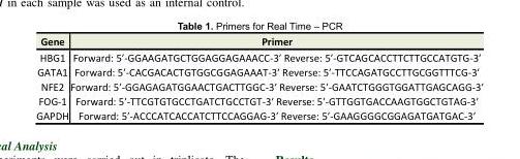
<table><tbody><tr><td>Gene</td><td>Primer</td></tr><tr><td>HBG1</td><td>Forward: 5′-GGAAGATGCTGGAGGAGAAACC-3′ Reverse: 5′-GTCAGCACCTTCTTGCCATGTG-3′</td></tr><tr><td>GATA1</td><td>Forward: 5′-CACGACACTGTGGCGGAGAAAT-3′ Reverse: 5′-TTCCAGATGCCTTGCGGTTTCG-3′</td></tr><tr><td>NFE2</td><td>Forward: 5′-GGAGAGATGGAACTGACTTGGC-3′ Reverse: 5′-GAATCTGGGTGGATTGAGCAGG-3′</td></tr><tr><td>FOG-1</td><td>Forward: 5′-TTCGTGTGCCTGATCTGCCTGT-3′ Reverse: 5′-GTTGGTGACCAAGTGGCTGTAG-3′</td></tr><tr><td>GAPDH</td><td>Forward: 5′-ACCCATCACCATCTTCCAGGAG-3′ Reverse: 5′-GAAGGGGCGGAGATGATGAC-3′</td></tr></tbody></table>